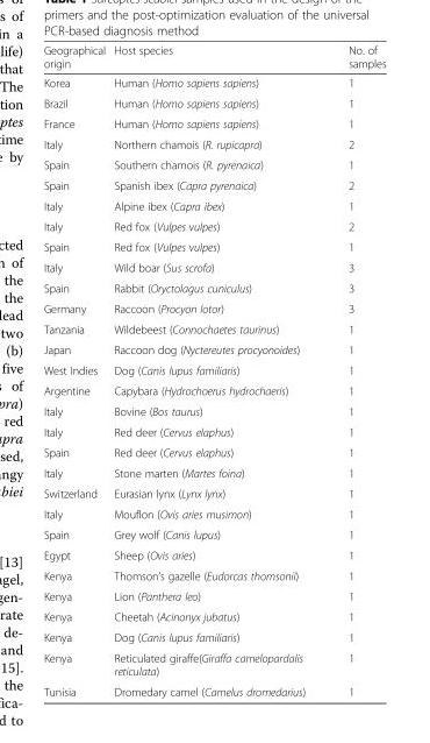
<table><thead><tr><td>Geographical origin</td><td>Host species</td><td>No. of samples</td></tr></thead><tbody><tr><td>Korea</td><td>Human (Homo sapiens sapiens)</td><td>1</td></tr><tr><td>Brazil</td><td>Human (Homo sapiens sapiens)</td><td>1</td></tr><tr><td>France</td><td>Human (Homo sapiens sapiens)</td><td>1</td></tr><tr><td>Italy</td><td>Northern chamois (R. rupicapra)</td><td>2</td></tr><tr><td>Spain</td><td>Southern chamois (R. pyrenaica)</td><td>1</td></tr><tr><td>Spain</td><td>Spanish ibex (Capra pyrenaica)</td><td>2</td></tr><tr><td>Italy</td><td>Alpine ibex (Capra ibex)</td><td>1</td></tr><tr><td>Italy</td><td>Red fox (Vulpes vulpes)</td><td>2</td></tr><tr><td>Spain</td><td>Red fox (Vulpes vulpes)</td><td>1</td></tr><tr><td>Italy</td><td>Wild boar (Sus scrofa)</td><td>3</td></tr><tr><td>Spain</td><td>Rabbit (Oryctolagus cuniculus)</td><td>3</td></tr><tr><td>Germany</td><td>Raccoon (Procyon lotor)</td><td>3</td></tr><tr><td>Tanzania</td><td>Wildebeest (Connochaetes taurinus)</td><td>1</td></tr><tr><td>Japan</td><td>Raccoon dog (Nyctereutes procyonoides)</td><td>1</td></tr><tr><td>West Indies</td><td>Dog (Canis lupus familiaris)</td><td>1</td></tr><tr><td>Argentine</td><td>Capybara (Hydrochoerus hydrochaeris)</td><td>1</td></tr><tr><td>Italy</td><td>Bovine (Bos taurus)</td><td>1</td></tr><tr><td>Italy</td><td>Red deer (Cervus elaphus)</td><td>1</td></tr><tr><td>Spain</td><td>Red deer (Cervus elaphus)</td><td>1</td></tr><tr><td>Italy</td><td>Stone marten (Martes foina)</td><td>1</td></tr><tr><td>Switzerland</td><td>Eurasian lynx (Lynx lynx)</td><td>1</td></tr><tr><td>Italy</td><td>Mouflon (Ovis aries musimon)</td><td>1</td></tr><tr><td>Spain</td><td>Grey wolf (Canis lupus)</td><td>1</td></tr><tr><td>Egypt</td><td>Sheep (Ovis aries)</td><td>1</td></tr><tr><td>Kenya</td><td>Thomson’s gazelle (Eudorcas thomsonii)</td><td>1</td></tr><tr><td>Kenya</td><td>Lion (Panthera leo)</td><td>1</td></tr><tr><td>Kenya</td><td>Cheetah (Acinonyx jubatus)</td><td>1</td></tr><tr><td>Kenya</td><td>Dog (Canis lupus familiaris)</td><td>1</td></tr><tr><td>Kenya</td><td>Reticulated giraffe(Giraffa camelopardalis reticulata)</td><td>1</td></tr><tr><td>Tunisia</td><td>Dromedary camel (Camelus dromedarius)</td><td>1</td></tr></tbody></table>